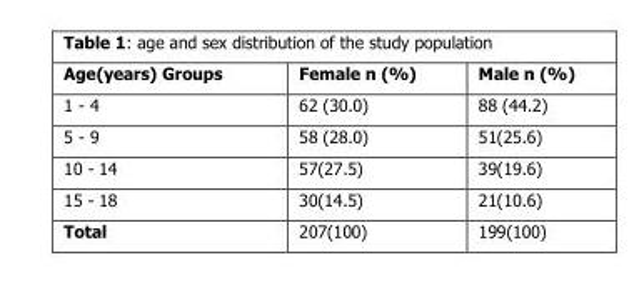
<table><thead><tr><td>Age(years) Groups</td><td>Female n (%)</td><td>Male n (%)</td></tr></thead><tbody><tr><td>1 - 4</td><td>62 (30.0)</td><td>88 (44.2)</td></tr><tr><td>5 - 9</td><td>58 (28.0)</td><td>51(25.6)</td></tr><tr><td>10 - 14</td><td>57(27.5)</td><td>39(19.6)</td></tr><tr><td>15 - 18</td><td>30(14.5)</td><td>21(10.6)</td></tr><tr><td>Total</td><td>207(100)</td><td>199(100)</td></tr></tbody></table>